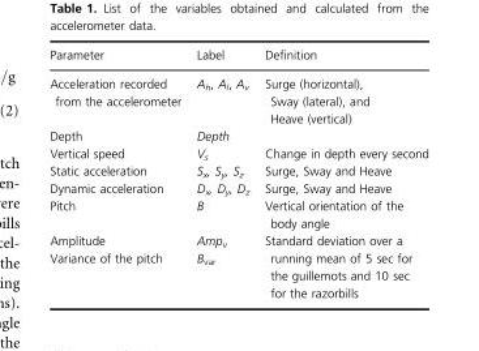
<table><thead><tr><td>Parameter</td><td>Label</td><td>Definition</td></tr></thead><tbody><tr><td>Acceleration recorded from the accelerometer</td><td>A<sub>h</sub>, A<sub>l</sub>, A<sub>v</sub></td><td>Surge (horizontal), Sway (lateral), and Heave (vertical)</td></tr><tr><td>Depth</td><td>Depth</td><td></td></tr><tr><td>Vertical speed</td><td>V<sub>s</sub></td><td>Change in depth every second</td></tr><tr><td>Static acceleration</td><td>S<sub>x</sub>, S<sub>y</sub>, S<sub>z</sub></td><td>Surge, Sway and Heave</td></tr><tr><td>Dynamic acceleration</td><td>D<sub>x</sub>, D<sub>y</sub>, D<sub>z</sub></td><td>Surge, Sway and Heave</td></tr><tr><td>Pitch</td><td>B</td><td>Vertical orientation of the body angle</td></tr><tr><td>Amplitude</td><td>Amp<sub>v</sub></td><td rowspan="2">Standard deviation over a running mean of 5 sec for the guillemots and 10 sec for the razorbills</td></tr><tr><td>Variance of the pitch</td><td>B<sub>var</sub></td></tr></tbody></table>